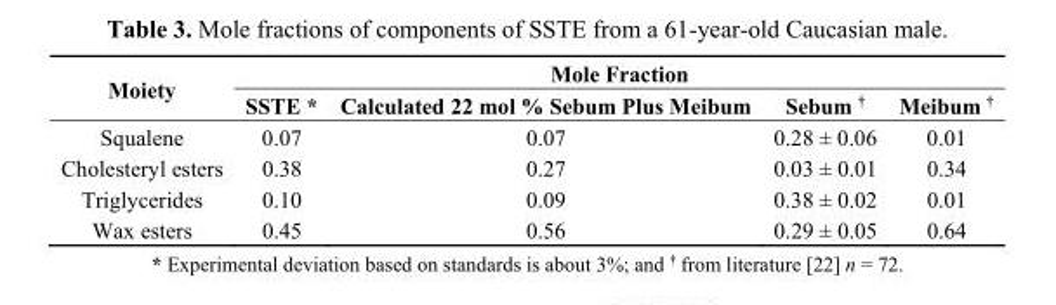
<table><thead><tr><td rowspan="2">Moiety</td><td colspan="4">Mole Fraction</td></tr><tr><td>SSTE *</td><td>Calculated 22 mol % Sebum Plus Meibum</td><td>Sebum <sup>†</sup></td><td>Meibum <sup>†</sup></td></tr></thead><tbody><tr><td>Squalene</td><td>0.07</td><td>0.07</td><td>0.28 ± 0.06</td><td>0.01</td></tr><tr><td>Cholesteryl esters</td><td>0.38</td><td>0.27</td><td>0.03 ± 0.01</td><td>0.34</td></tr><tr><td>Triglycerides</td><td>0.10</td><td>0.09</td><td>0.38 ± 0.02</td><td>0.01</td></tr><tr><td>Wax esters</td><td>0.45</td><td>0.56</td><td>0.29 ± 0.05</td><td>0.64</td></tr></tbody></table>